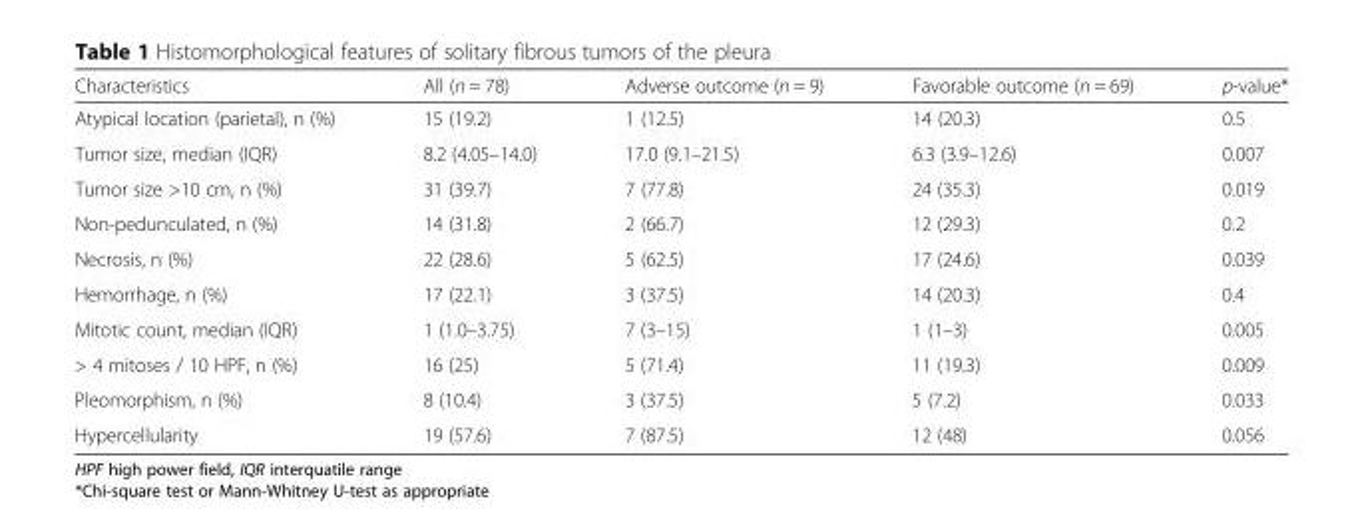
<table><thead><tr><td>Characteristics</td><td>All (n = 78)</td><td>Adverse outcome (n = 9)</td><td>Favorable outcome (n = 69)</td><td>p-value*</td></tr></thead><tbody><tr><td>Atypical location (parietal), n (%)</td><td>15 (19.2)</td><td>1 (12.5)</td><td>14 (20.3)</td><td>0.5</td></tr><tr><td>Tumor size, median (IQR)</td><td>8.2 (4.05–14.0)</td><td>17.0 (9.1–21.5)</td><td>6.3 (3.9–12.6)</td><td>0.007</td></tr><tr><td>Tumor size &gt;10 cm, n (%)</td><td>31 (39.7)</td><td>7 (77.8)</td><td>24 (35.3)</td><td>0.019</td></tr><tr><td>Non-pedunculated, n (%)</td><td>14 (31.8)</td><td>2 (66.7)</td><td>12 (29.3)</td><td>0.2</td></tr><tr><td>Necrosis, n (%)</td><td>22 (28.6)</td><td>5 (62.5)</td><td>17 (24.6)</td><td>0.039</td></tr><tr><td>Hemorrhage, n (%)</td><td>17 (22.1)</td><td>3 (37.5)</td><td>14 (20.3)</td><td>0.4</td></tr><tr><td>Mitotic count, median (IQR)</td><td>1 (1.0–3.75)</td><td>7 (3–15)</td><td>1 (1–3)</td><td>0.005</td></tr><tr><td>&gt; 4 mitoses / 10 HPF, n (%)</td><td>16 (25)</td><td>5 (71.4)</td><td>11 (19.3)</td><td>0.009</td></tr><tr><td>Pleomorphism, n (%)</td><td>8 (10.4)</td><td>3 (37.5)</td><td>5 (7.2)</td><td>0.033</td></tr><tr><td>Hypercellularity</td><td>19 (57.6)</td><td>7 (87.5)</td><td>12 (48)</td><td>0.056</td></tr></tbody></table>